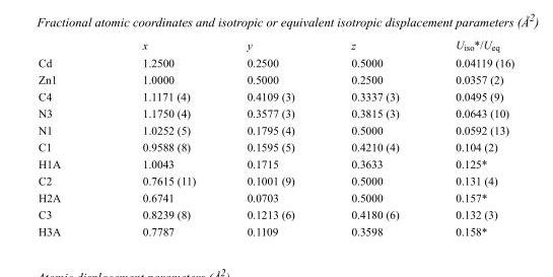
<table><thead><tr><td></td><td>x</td><td>y</td><td>z</td><td>U<sub>iso</sub>*/U<sub>eq</sub></td></tr></thead><tbody><tr><td>Cd</td><td>1.2500</td><td>0.2500</td><td>0.5000</td><td>0.04119 (16)</td></tr><tr><td>Zn1</td><td>1.0000</td><td>0.5000</td><td>0.2500</td><td>0.0357 (2)</td></tr><tr><td>C4</td><td>1.1171 (4)</td><td>0.4109 (3)</td><td>0.3337 (3)</td><td>0.0495 (9)</td></tr><tr><td>N3</td><td>1.1750 (4)</td><td>0.3577 (3)</td><td>0.3815 (3)</td><td>0.0643 (10)</td></tr><tr><td>N1</td><td>1.0252 (5)</td><td>0.1795 (4)</td><td>0.5000</td><td>0.0592 (13)</td></tr><tr><td>C1</td><td>0.9588 (8)</td><td>0.1595 (5)</td><td>0.4210 (4)</td><td>0.104 (2)</td></tr><tr><td>H1A</td><td>1.0043</td><td>0.1715</td><td>0.3633</td><td>0.125*</td></tr><tr><td>C2</td><td>0.7615 (11)</td><td>0.1001 (9)</td><td>0.5000</td><td>0.131 (4)</td></tr><tr><td>H2A</td><td>0.6741</td><td>0.0703</td><td>0.5000</td><td>0.157*</td></tr><tr><td>C3</td><td>0.8239 (8)</td><td>0.1213 (6)</td><td>0.4180 (6)</td><td>0.132 (3)</td></tr><tr><td>H3A</td><td>0.7787</td><td>0.1109</td><td>0.3598</td><td>0.158*</td></tr></tbody></table>